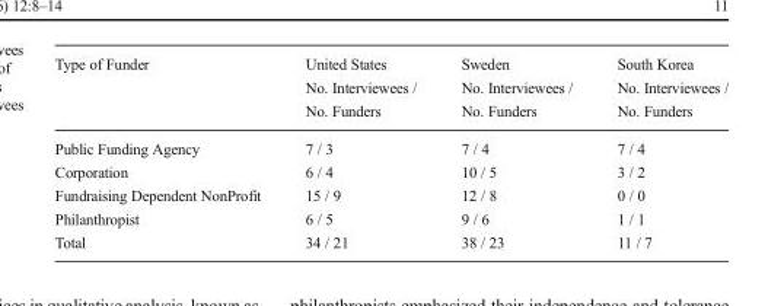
<table><thead><tr><td>Type of Funder</td><td>United States No. Interviewees / No. Funders</td><td>Sweden No. Interviewees / No. Funders</td><td>South Korea No. Interviewees / No. Funders</td></tr></thead><tbody><tr><td>Public Funding Agency</td><td>7 / 3</td><td>7 / 4</td><td>7 / 4</td></tr><tr><td>Corporation</td><td>6 / 4</td><td>10 / 5</td><td>3 / 2</td></tr><tr><td>Fundraising Dependent NonProfit</td><td>15 / 9</td><td>12 / 8</td><td>0 / 0</td></tr><tr><td>Philanthropist</td><td>6 / 5</td><td>9 / 6</td><td>1 / 1</td></tr><tr><td>Total</td><td>34 / 21</td><td>38 / 23</td><td>11 / 7</td></tr></tbody></table>